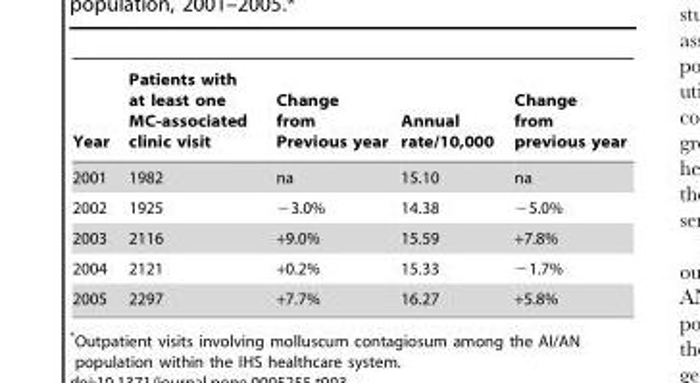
<table><thead><tr><td>Year</td><td>Patients with at least one MC-associated clinic visit</td><td>Change from Previous year</td><td>Annual rate/10,000</td><td>Change from previous year</td></tr></thead><tbody><tr><td>2001</td><td>1982</td><td>na</td><td>15.10</td><td>na</td></tr><tr><td>2002</td><td>1925</td><td>−3.0%</td><td>14.38</td><td>−5.0%</td></tr><tr><td>2003</td><td>2116</td><td>+9.0%</td><td>15.59</td><td>+7.8%</td></tr><tr><td>2004</td><td>2121</td><td>+0.2%</td><td>15.33</td><td>−1.7%</td></tr><tr><td>2005</td><td>2297</td><td>+7.7%</td><td>16.27</td><td>+5.8%</td></tr></tbody></table>